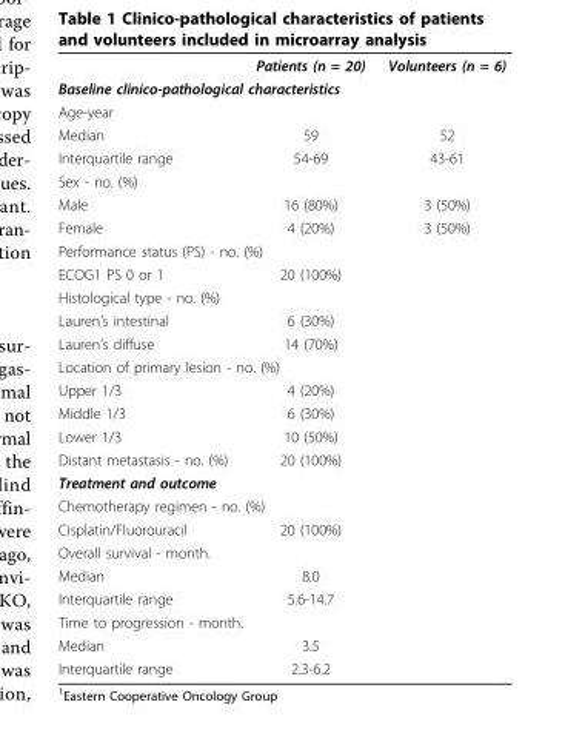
<table><thead><tr><td></td><td>Patients (n = 20)</td><td>Volunteers (n = 6)</td></tr></thead><tbody><tr><td colspan="3">Baseline clinico-pathological characteristics</td></tr><tr><td colspan="3">Age-year</td></tr><tr><td>Median</td><td>59</td><td>52</td></tr><tr><td>Interquartile range</td><td>54-69</td><td>43-61</td></tr><tr><td colspan="3">Sex - no. (%)</td></tr><tr><td>Male</td><td>16 (80%)</td><td>3 (50%)</td></tr><tr><td>Female</td><td>4 (20%)</td><td>3 (50%)</td></tr><tr><td colspan="3">Performance status (PS) - no. (%)</td></tr><tr><td>ECOG1 PS 0 or 1</td><td>20 (100%)</td><td></td></tr><tr><td colspan="3">Histological type - no. (%)</td></tr><tr><td>Lauren’s intestinal</td><td>6 (30%)</td><td></td></tr><tr><td>Lauren’s diffuse</td><td>14 (70%)</td><td></td></tr><tr><td colspan="3">Location of primary lesion - no. (%)</td></tr><tr><td>Upper 1/3</td><td>4 (20%)</td><td></td></tr><tr><td>Middle 1/3</td><td>6 (30%)</td><td></td></tr><tr><td>Lower 1/3</td><td>10 (50%)</td><td></td></tr><tr><td>Distant metastasis - no. (%)</td><td>20 (100%)</td><td></td></tr><tr><td colspan="3">Treatment and outcome</td></tr><tr><td colspan="3">Chemotherapy regimen - no. (%)</td></tr><tr><td>Cisplatin/Fluorouracil</td><td>20 (100%)</td><td></td></tr><tr><td colspan="3">Overall survival - month.</td></tr><tr><td>Median</td><td>8.0</td><td></td></tr><tr><td>Interquartile range</td><td>5.6-14.7</td><td></td></tr><tr><td colspan="3">Time to progression - month.</td></tr><tr><td>Median</td><td>3.5</td><td></td></tr><tr><td>Interquartile range</td><td>2.3-6.2</td><td></td></tr></tbody></table>